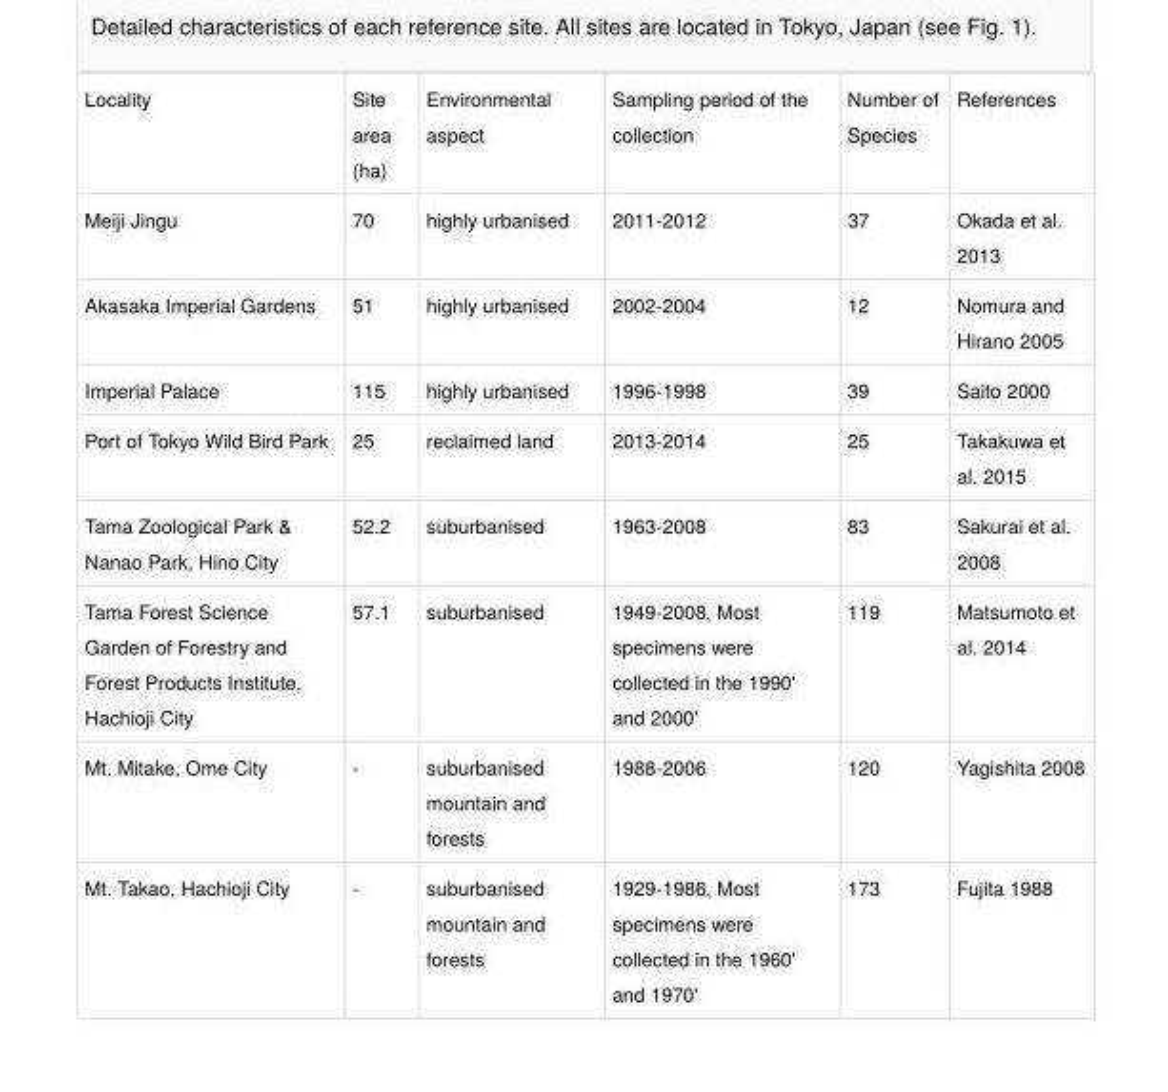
<table><tbody><tr><td>Locality</td><td>Site area (ha)</td><td>Environmental aspect</td><td>Sampling period of the collection</td><td>Number of Species</td><td>References</td></tr><tr><td>Meiji Jingu</td><td>70</td><td>highly urbanised</td><td>2011-2012</td><td>37</td><td>Okada et al. 2013</td></tr><tr><td>Akasaka Imperial Gardens</td><td>51</td><td>highly urbanised</td><td>2002-2004</td><td>12</td><td>Nomura and Hirano 2005</td></tr><tr><td>Imperial Palace</td><td>115</td><td>highly urbanised</td><td>1996-1998</td><td>39</td><td>Saito 2000</td></tr><tr><td>Port of Tokyo Wild Bird Park</td><td>25</td><td>reclaimed land</td><td>2013-2014</td><td>25</td><td>Takakuwa et al. 2015</td></tr><tr><td>Tama Zoological Park &amp; Nanao Park, Hino City</td><td>52.2</td><td>suburbanised</td><td>1963-2008</td><td>83</td><td>Sakurai et al. 2008</td></tr><tr><td>Tama Forest Science Garden of Forestry and Forest Products Institute, Hachioji City</td><td>57.1</td><td>suburbanised</td><td>1949-2008, Most specimens were collected in the 1990&#x27; and 2000&#x27;</td><td>119</td><td>Matsumoto et al. 2014</td></tr><tr><td>Mt. Mitake, Ome City</td><td>-</td><td>suburbanised mountain and forests</td><td>1988-2006</td><td>120</td><td>Yagishita 2008</td></tr><tr><td>Mt. Takao, Hachioji City</td><td>-</td><td>suburbanised mountain and forests</td><td>1929-1986, Most specimens were collected in the 1960&#x27; and 1970&#x27;</td><td>173</td><td>Fujita 1988</td></tr></tbody></table>